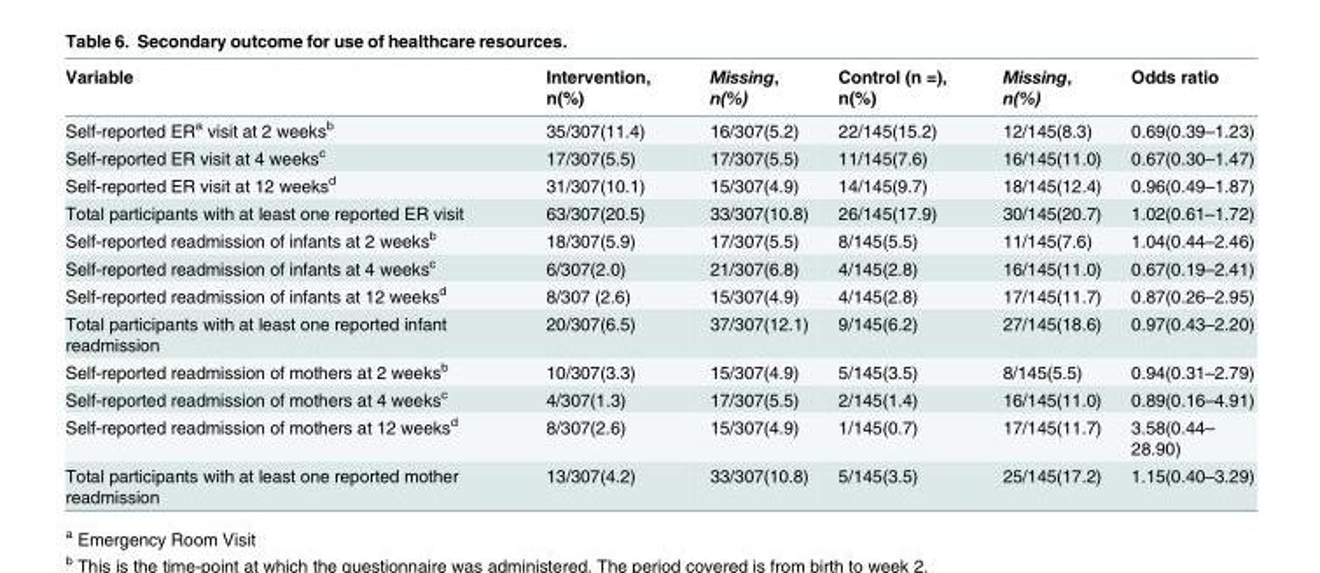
<table><thead><tr><td>Variable</td><td>Intervention, n(%)</td><td>Missing, n(%)</td><td>Control (n =), n(%)</td><td>Missing, n(%)</td><td>Odds ratio</td></tr></thead><tbody><tr><td>Self-reported ER<sup>a</sup> visit at 2 weeks<sup>b</sup></td><td>35/307(11.4)</td><td>16/307(5.2)</td><td>22/145(15.2)</td><td>12/145(8.3)</td><td>0.69(0.39–1.23)</td></tr><tr><td>Self-reported ER visit at 4 weeks<sup>c</sup></td><td>17/307(5.5)</td><td>17/307(5.5)</td><td>11/145(7.6)</td><td>16/145(11.0)</td><td>0.67(0.30–1.47)</td></tr><tr><td>Self-reported ER visit at 12 weeks<sup>d</sup></td><td>31/307(10.1)</td><td>15/307(4.9)</td><td>14/145(9.7)</td><td>18/145(12.4)</td><td>0.96(0.49–1.87)</td></tr><tr><td>Total participants with at least one reported ER visit</td><td>63/307(20.5)</td><td>33/307(10.8)</td><td>26/145(17.9)</td><td>30/145(20.7)</td><td>1.02(0.61–1.72)</td></tr><tr><td>Self-reported readmission of infants at 2 weeks<sup>b</sup></td><td>18/307(5.9)</td><td>17/307(5.5)</td><td>8/145(5.5)</td><td>11/145(7.6)</td><td>1.04(0.44–2.46)</td></tr><tr><td>Self-reported readmission of infants at 4 weeks<sup>c</sup></td><td>6/307(2.0)</td><td>21/307(6.8)</td><td>4/145(2.8)</td><td>16/145(11.0)</td><td>0.67(0.19–2.41)</td></tr><tr><td>Self-reported readmission of infants at 12 weeks<sup>d</sup></td><td>8/307 (2.6)</td><td>15/307(4.9)</td><td>4/145(2.8)</td><td>17/145(11.7)</td><td>0.87(0.26–2.95)</td></tr><tr><td>Total participants with at least one reported infant readmission</td><td>20/307(6.5)</td><td>37/307(12.1)</td><td>9/145(6.2)</td><td>27/145(18.6)</td><td>0.97(0.43–2.20)</td></tr><tr><td>Self-reported readmission of mothers at 2 weeks<sup>b</sup></td><td>10/307(3.3)</td><td>15/307(4.9)</td><td>5/145(3.5)</td><td>8/145(5.5)</td><td>0.94(0.31–2.79)</td></tr><tr><td>Self-reported readmission of mothers at 4 weeks<sup>c</sup></td><td>4/307(1.3)</td><td>17/307(5.5)</td><td>2/145(1.4)</td><td>16/145(11.0)</td><td>0.89(0.16–4.91)</td></tr><tr><td>Self-reported readmission of mothers at 12 weeks<sup>d</sup></td><td>8/307(2.6)</td><td>15/307(4.9)</td><td>1/145(0.7)</td><td>17/145(11.7)</td><td>3.58(0.44– 28.90)</td></tr><tr><td>Total participants with at least one reported mother readmission</td><td>13/307(4.2)</td><td>33/307(10.8)</td><td>5/145(3.5)</td><td>25/145(17.2)</td><td>1.15(0.40–3.29)</td></tr></tbody></table>